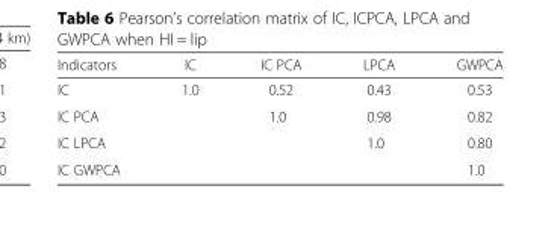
<table><thead><tr><td>Indicators</td><td>IC</td><td>IC PCA</td><td>LPCA</td><td>GWPCA</td></tr></thead><tbody><tr><td>IC</td><td>1.0</td><td>0.52</td><td>0.43</td><td>0.53</td></tr><tr><td>IC PCA</td><td></td><td>1.0</td><td>0.98</td><td>0.82</td></tr><tr><td>IC LPCA</td><td></td><td></td><td>1.0</td><td>0.80</td></tr><tr><td>IC GWPCA</td><td></td><td></td><td></td><td>1.0</td></tr></tbody></table>